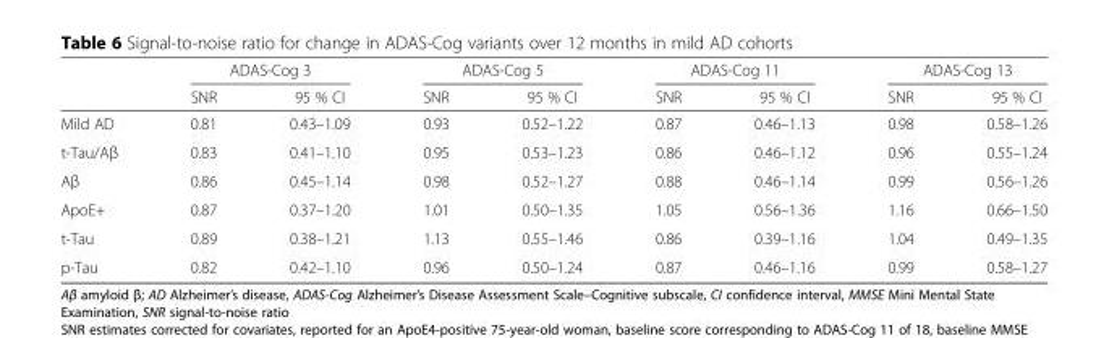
<table><thead><tr><td rowspan="2"></td><td colspan="2">ADAS-Cog 3</td><td colspan="2">ADAS-Cog 5</td><td colspan="2">ADAS-Cog 11</td><td colspan="2">ADAS-Cog 13</td></tr><tr><td>SNR</td><td>95 % CI</td><td>SNR</td><td>95 % CI</td><td>SNR</td><td>95 % CI</td><td>SNR</td><td>95 % CI</td></tr></thead><tbody><tr><td>Mild AD</td><td>0.81</td><td>0.43–1.09</td><td>0.93</td><td>0.52–1.22</td><td>0.87</td><td>0.46–1.13</td><td>0.98</td><td>0.58–1.26</td></tr><tr><td>t-Tau/Aβ</td><td>0.83</td><td>0.41–1.10</td><td>0.95</td><td>0.53–1.23</td><td>0.86</td><td>0.46–1.12</td><td>0.96</td><td>0.55–1.24</td></tr><tr><td>Aβ</td><td>0.86</td><td>0.45–1.14</td><td>0.98</td><td>0.52–1.27</td><td>0.88</td><td>0.46–1.14</td><td>0.99</td><td>0.56–1.26</td></tr><tr><td>ApoE+</td><td>0.87</td><td>0.37–1.20</td><td>1.01</td><td>0.50–1.35</td><td>1.05</td><td>0.56–1.36</td><td>1.16</td><td>0.66–1.50</td></tr><tr><td>t-Tau</td><td>0.89</td><td>0.38–1.21</td><td>1.13</td><td>0.55–1.46</td><td>0.86</td><td>0.39–1.16</td><td>1.04</td><td>0.49–1.35</td></tr><tr><td>p-Tau</td><td>0.82</td><td>0.42–1.10</td><td>0.96</td><td>0.50–1.24</td><td>0.87</td><td>0.46–1.16</td><td>0.99</td><td>0.58–1.27</td></tr></tbody></table>